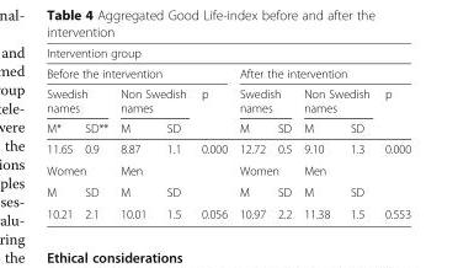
<table><thead><tr><td colspan="10">Intervention group</td></tr><tr><td colspan="5">Before the intervention</td><td colspan="5">After the intervention</td></tr><tr><td colspan="2">Swedish names</td><td colspan="2">Non Swedish names</td><td rowspan="2">p</td><td colspan="2">Swedish names</td><td colspan="2">Non Swedish names</td><td rowspan="2">p</td></tr><tr><td>M*</td><td>SD**</td><td>M</td><td>SD</td><td>M</td><td>SD</td><td>M</td><td>SD</td></tr></thead><tbody><tr><td>11.65</td><td>0.9</td><td>8.87</td><td>1.1</td><td>0.000</td><td>12.72</td><td>0.5</td><td>9.10</td><td>1.3</td><td>0.000</td></tr><tr><td colspan="2">Women</td><td colspan="2">Men</td><td></td><td colspan="2">Women</td><td colspan="2">Men</td><td></td></tr><tr><td>M</td><td>SD</td><td>M</td><td>SD</td><td></td><td>M</td><td>SD</td><td>M</td><td>SD</td><td></td></tr><tr><td>10.21</td><td>2.1</td><td>10.01</td><td>1.5</td><td>0.056</td><td>10.97</td><td>2.2</td><td>11.38</td><td>1.5</td><td>0.553</td></tr></tbody></table>